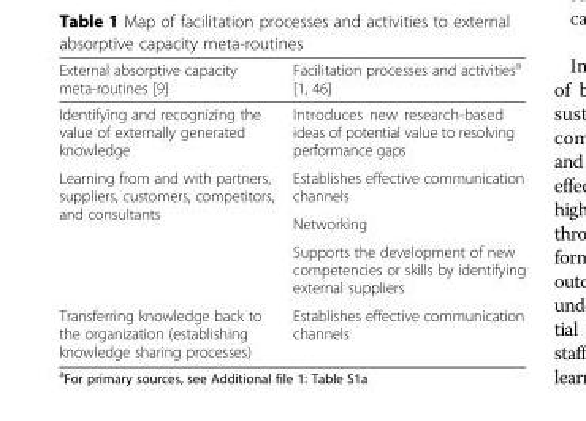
<table><thead><tr><td>External absorptive capacity meta-routines [9]</td><td>Facilitation processes and activities<sup>a</sup> [1, 46]</td></tr></thead><tbody><tr><td>Identifying and recognizing the value of externally generated knowledge</td><td>Introduces new research-based ideas of potential value to resolving performance gaps</td></tr><tr><td rowspan="3">Learning from and with partners, suppliers, customers, competitors, and consultants</td><td>Establishes effective communication channels</td></tr><tr><td>Networking</td></tr><tr><td>Supports the development of new competencies or skills by identifying external suppliers</td></tr><tr><td>Transferring knowledge back to the organization (establishing knowledge sharing processes)</td><td>Establishes effective communication channels</td></tr></tbody></table>